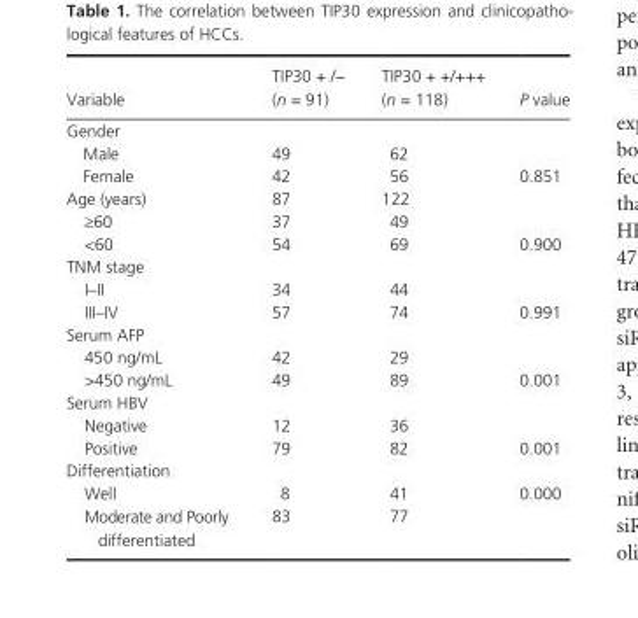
<table><thead><tr><td>Variable</td><td>TIP30 + /− (n = 91)</td><td>TIP30 + +/+++ (n = 118)</td><td>P value</td></tr></thead><tbody><tr><td colspan="4">Gender</td></tr><tr><td>Male</td><td>49</td><td>62</td><td></td></tr><tr><td>Female</td><td>42</td><td>56</td><td>0.851</td></tr><tr><td>Age (years)</td><td>87</td><td>122</td><td></td></tr><tr><td>≥60</td><td>37</td><td>49</td><td></td></tr><tr><td>&lt;60</td><td>54</td><td>69</td><td>0.900</td></tr><tr><td colspan="4">TNM stage</td></tr><tr><td>I–II</td><td>34</td><td>44</td><td></td></tr><tr><td>III–IV</td><td>57</td><td>74</td><td>0.991</td></tr><tr><td colspan="4">Serum AFP</td></tr><tr><td>450 ng/mL</td><td>42</td><td>29</td><td></td></tr><tr><td>&gt;450 ng/mL</td><td>49</td><td>89</td><td>0.001</td></tr><tr><td colspan="4">Serum HBV</td></tr><tr><td>Negative</td><td>12</td><td>36</td><td></td></tr><tr><td>Positive</td><td>79</td><td>82</td><td>0.001</td></tr><tr><td colspan="4">Differentiation</td></tr><tr><td>Well</td><td>8</td><td>41</td><td>0.000</td></tr><tr><td>Moderate and Poorly differentiated</td><td>83</td><td>77</td><td></td></tr></tbody></table>